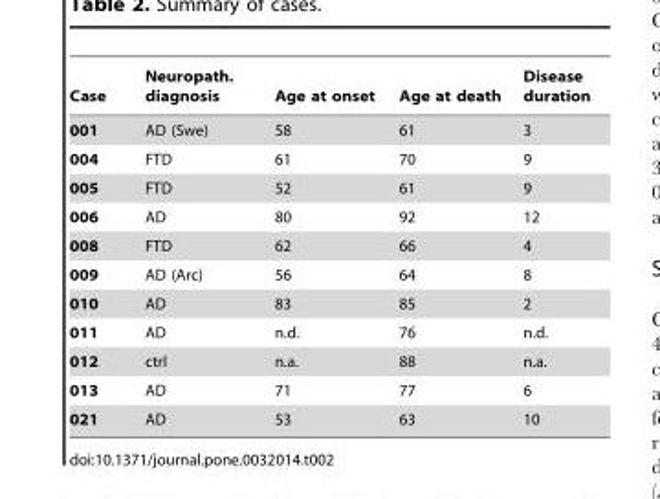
<table><thead><tr><td>Case</td><td>Neuropath. diagnosis</td><td>Age at onset</td><td>Age at death</td><td>Disease duration</td></tr></thead><tbody><tr><td>001</td><td>AD (Swe)</td><td>58</td><td>61</td><td>3</td></tr><tr><td>004</td><td>FTD</td><td>61</td><td>70</td><td>9</td></tr><tr><td>005</td><td>FTD</td><td>52</td><td>61</td><td>9</td></tr><tr><td>006</td><td>AD</td><td>80</td><td>92</td><td>12</td></tr><tr><td>008</td><td>FTD</td><td>62</td><td>66</td><td>4</td></tr><tr><td>009</td><td>AD (Arc)</td><td>56</td><td>64</td><td>8</td></tr><tr><td>010</td><td>AD</td><td>83</td><td>85</td><td>2</td></tr><tr><td>011</td><td>AD</td><td>n.d.</td><td>76</td><td>n.d.</td></tr><tr><td>012</td><td>ctrl</td><td>n.a.</td><td>88</td><td>n.a.</td></tr><tr><td>013</td><td>AD</td><td>71</td><td>77</td><td>6</td></tr><tr><td>021</td><td>AD</td><td>53</td><td>63</td><td>10</td></tr></tbody></table>